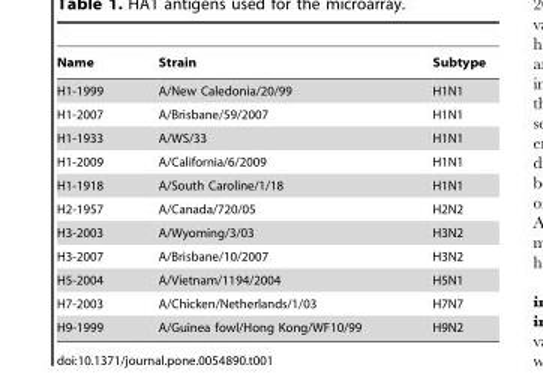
<table><thead><tr><td>Name</td><td>Strain</td><td>Subtype</td></tr></thead><tbody><tr><td>H1-1999</td><td>A/New Caledonia/20/99</td><td>H1N1</td></tr><tr><td>H1-2007</td><td>A/Brisbane/59/2007</td><td>H1N1</td></tr><tr><td>H1-1933</td><td>A/WS/33</td><td>H1N1</td></tr><tr><td>H1-2009</td><td>A/California/6/2009</td><td>H1N1</td></tr><tr><td>H1-1918</td><td>A/South Caroline/1/18</td><td>H1N1</td></tr><tr><td>H2-1957</td><td>A/Canada/720/05</td><td>H2N2</td></tr><tr><td>H3-2003</td><td>A/Wyoming/3/03</td><td>H3N2</td></tr><tr><td>H3-2007</td><td>A/Brisbane/10/2007</td><td>H3N2</td></tr><tr><td>H5-2004</td><td>A/Vietnam/1194/2004</td><td>H5N1</td></tr><tr><td>H7-2003</td><td>A/Chicken/Netherlands/1/03</td><td>H7N7</td></tr><tr><td>H9-1999</td><td>A/Guinea fowl/Hong Kong/WF10/99</td><td>H9N2</td></tr></tbody></table>